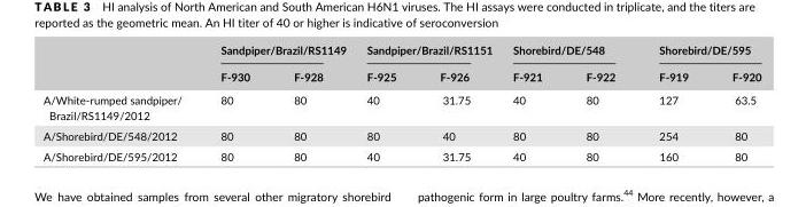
<table><thead><tr><td rowspan="2"></td><td colspan="2">Sandpiper/Brazil/RS1149</td><td colspan="2">Sandpiper/Brazil/RS1151</td><td colspan="2">Shorebird/DE/548</td><td colspan="2">Shorebird/DE/595</td></tr><tr><td>F- 930</td><td>F- 928</td><td>F- 925</td><td>F- 926</td><td>F- 921</td><td>F- 922</td><td>F- 919</td><td>F- 920</td></tr></thead><tbody><tr><td>A/White- rumped sandpiper/ Brazil/RS1149/2012</td><td>80</td><td>80</td><td>40</td><td>31.75</td><td>40</td><td>80</td><td>127</td><td>63.5</td></tr><tr><td>A/Shorebird/DE/548/2012</td><td>80</td><td>80</td><td>80</td><td>40</td><td>80</td><td>80</td><td>254</td><td>80</td></tr><tr><td>A/Shorebird/DE/595/2012</td><td>80</td><td>80</td><td>40</td><td>31.75</td><td>40</td><td>80</td><td>160</td><td>80</td></tr></tbody></table>